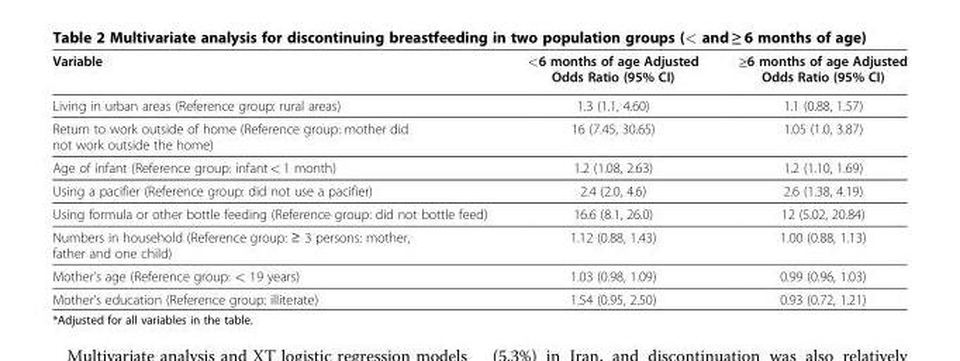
<table><thead><tr><td>Variable</td><td>&lt;6 months of age Adjusted Odds Ratio (95% CI)</td><td>≥6 months of age Adjusted Odds Ratio (95% CI)</td></tr></thead><tbody><tr><td>Living in urban areas (Reference group: rural areas)</td><td>1.3 (1.1, 4.60)</td><td>1.1 (0.88, 1.57)</td></tr><tr><td>Return to work outside of home (Reference group: mother did not work outside the home)</td><td>16 (7.45, 30.65)</td><td>1.05 (1.0, 3.87)</td></tr><tr><td>Age of infant (Reference group: infant &lt; 1 month)</td><td>1.2 (1.08, 2.63)</td><td>1.2 (1.10, 1.69)</td></tr><tr><td>Using a pacifier (Reference group: did not use a pacifier)</td><td>2.4 (2.0, 4.6)</td><td>2.6 (1.38, 4.19)</td></tr><tr><td>Using formula or other bottle feeding (Reference group: did not bottle feed)</td><td>16.6 (8.1, 26.0)</td><td>12 (5.02, 20.84)</td></tr><tr><td>Numbers in household (Reference group: ≥ 3 persons: mother, father and one child)</td><td>1.12 (0.88, 1.43)</td><td>1.00 (0.88, 1.13)</td></tr><tr><td>Mother’s age (Reference group: &lt; 19 years)</td><td>1.03 (0.98, 1.09)</td><td>0.99 (0.96, 1.03)</td></tr><tr><td>Mother’s education (Reference group: illiterate)</td><td>1.54 (0.95, 2.50)</td><td>0.93 (0.72, 1.21)</td></tr></tbody></table>